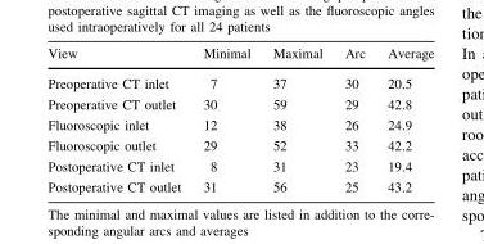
<table><thead><tr><td>View</td><td>Minimal</td><td>Maximal</td><td>Arc</td><td>Average</td></tr></thead><tbody><tr><td>Preoperative CT inlet</td><td>7</td><td>37</td><td>30</td><td>20.5</td></tr><tr><td>Preoperative CT outlet</td><td>30</td><td>59</td><td>29</td><td>42.8</td></tr><tr><td>Fluoroscopic inlet</td><td>12</td><td>38</td><td>26</td><td>24.9</td></tr><tr><td>Fluoroscopic outlet</td><td>29</td><td>52</td><td>33</td><td>42.2</td></tr><tr><td>Postoperative CT inlet</td><td>8</td><td>31</td><td>23</td><td>19.4</td></tr><tr><td>Postoperative CT outlet</td><td>31</td><td>56</td><td>25</td><td>43.2</td></tr></tbody></table>